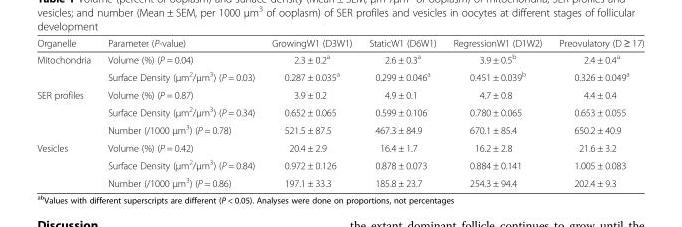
<table><thead><tr><td>Organelle</td><td>Parameter (P-value)</td><td>GrowingW1 (D3W1)</td><td>StaticW1 (D6W1)</td><td>RegressionW1 (D1W2)</td><td>Preovulatory (D ≥ 17)</td></tr></thead><tbody><tr><td rowspan="2">Mitochondria</td><td>Volume (%) (P = 0.04)</td><td>2.3 ± 0.2<sup>a</sup></td><td>2.6 ± 0.3<sup>a</sup></td><td>3.9 ± 0.5<sup>b</sup></td><td>2.4 ± 0.4<sup>a</sup></td></tr><tr><td>Surface Density (μm<sup>2</sup>/μm<sup>3</sup>) (P = 0.03)</td><td>0.287 ± 0.035<sup>a</sup></td><td>0.299 ± 0.046<sup>a</sup></td><td>0.451 ± 0.039<sup>b</sup></td><td>0.326 ± 0.049<sup>a</sup></td></tr><tr><td rowspan="3">SER profiles</td><td>Volume (%) (P = 0.87)</td><td>3.9 ± 0.2</td><td>4.9 ± 0.1</td><td>4.7 ± 0.8</td><td>4.4 ± 0.4</td></tr><tr><td>Surface Density (μm<sup>2</sup>/μm<sup>3</sup>) (P = 0.34)</td><td>0.652 ± 0.065</td><td>0.599 ± 0.106</td><td>0.780 ± 0.065</td><td>0.653 ± 0.055</td></tr><tr><td>Number (/1000 μm<sup>3</sup>) (P = 0.78)</td><td>521.5 ± 87.5</td><td>467.3 ± 84.9</td><td>670.1 ± 85.4</td><td>650.2 ± 40.9</td></tr><tr><td rowspan="3">Vesicles</td><td>Volume (%) (P = 0.42)</td><td>20.4 ± 2.9</td><td>16.4 ± 1.7</td><td>16.2 ± 2.8</td><td>21.6 ± 3.2</td></tr><tr><td>Surface Density (μm<sup>2</sup>/μm<sup>3</sup>) (P = 0.84)</td><td>0.972 ± 0.126</td><td>0.878 ± 0.073</td><td>0.884 ± 0.141</td><td>1.005 ± 0.083</td></tr><tr><td>Number (/1000 μm<sup>3</sup>) (P = 0.86)</td><td>197.1 ± 33.3</td><td>185.8 ± 23.7</td><td>254.3 ± 94.4</td><td>202.4 ± 9.3</td></tr></tbody></table>